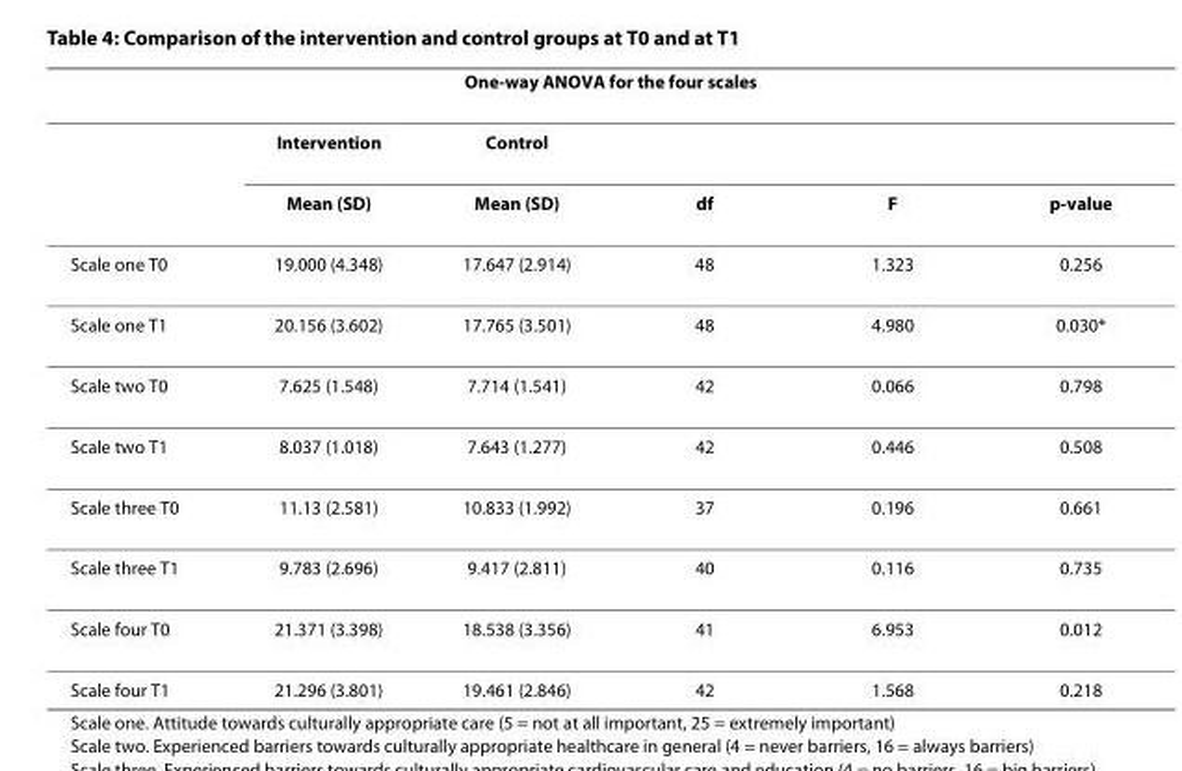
<table><thead><tr><td colspan="6">One-way ANOVA for the four scales</td></tr><tr><td></td><td>Intervention</td><td>Control</td><td></td><td></td><td></td></tr></thead><tbody><tr><td></td><td>Mean (SD)</td><td>Mean (SD)</td><td>df</td><td>F</td><td>p-value</td></tr><tr><td>Scale one T0</td><td>19.000 (4.348)</td><td>17.647 (2.914)</td><td>48</td><td>1.323</td><td>0.256</td></tr><tr><td>Scale one T1</td><td>20.156 (3.602)</td><td>17.765 (3.501)</td><td>48</td><td>4.980</td><td>0.030*</td></tr><tr><td>Scale two T0</td><td>7.625 (1.548)</td><td>7.714 (1.541)</td><td>42</td><td>0.066</td><td>0.798</td></tr><tr><td>Scale two T1</td><td>8.037 (1.018)</td><td>7.643 (1.277)</td><td>42</td><td>0.446</td><td>0.508</td></tr><tr><td>Scale three T0</td><td>11.13 (2.581)</td><td>10.833 (1.992)</td><td>37</td><td>0.196</td><td>0.661</td></tr><tr><td>Scale three T1</td><td>9.783 (2.696)</td><td>9.417 (2.811)</td><td>40</td><td>0.116</td><td>0.735</td></tr><tr><td>Scale four T0</td><td>21.371 (3.398)</td><td>18.538 (3.356)</td><td>41</td><td>6.953</td><td>0.012</td></tr><tr><td>Scale four T1</td><td>21.296 (3.801)</td><td>19.461 (2.846)</td><td>42</td><td>1.568</td><td>0.218</td></tr></tbody></table>